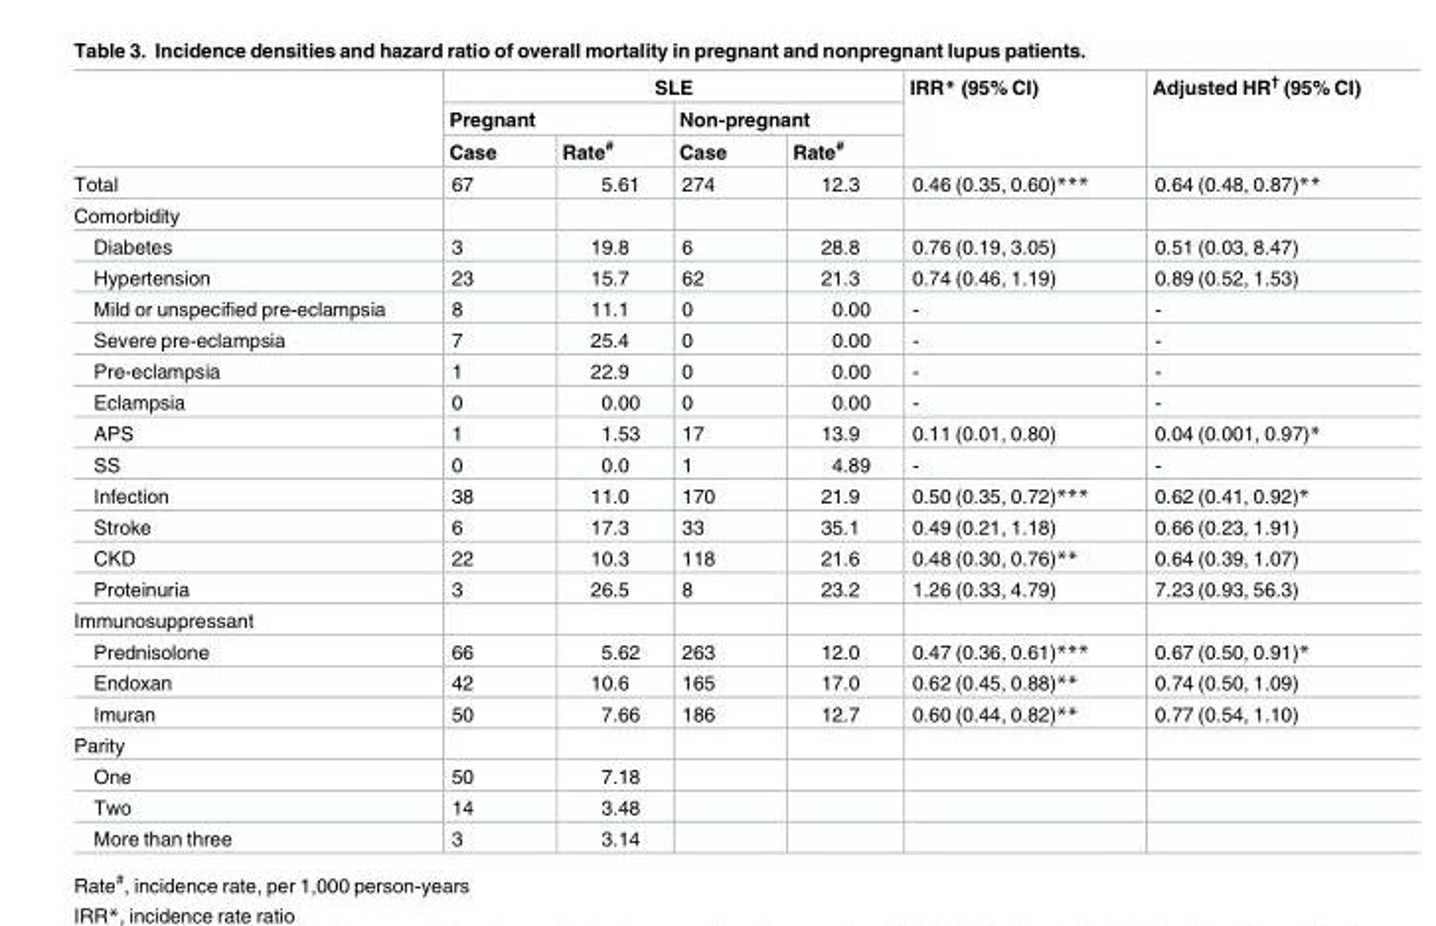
<table><thead><tr><td rowspan="3"></td><td colspan="4">SLE</td><td rowspan="3">IRR* (95% CI)</td><td rowspan="3">Adjusted HR<sup>†</sup> (95% CI)</td></tr><tr><td colspan="2">Pregnant</td><td colspan="2">Non-pregnant</td></tr><tr><td>Case</td><td>Rate<sup>#</sup></td><td>Case</td><td>Rate<sup>#</sup></td></tr></thead><tbody><tr><td>Total</td><td>67</td><td>5.61</td><td>274</td><td>12.3</td><td>0.46 (0.35, 0.60)***</td><td>0.64 (0.48, 0.87)**</td></tr><tr><td colspan="7">Comorbidity</td></tr><tr><td>Diabetes</td><td>3</td><td>19.8</td><td>6</td><td>28.8</td><td>0.76 (0.19, 3.05)</td><td>0.51 (0.03, 8.47)</td></tr><tr><td>Hypertension</td><td>23</td><td>15.7</td><td>62</td><td>21.3</td><td>0.74 (0.46, 1.19)</td><td>0.89 (0.52, 1.53)</td></tr><tr><td>Mild or unspecified pre-eclampsia</td><td>8</td><td>11.1</td><td>0</td><td>0.00</td><td>-</td><td>-</td></tr><tr><td>Severe pre-eclampsia</td><td>7</td><td>25.4</td><td>0</td><td>0.00</td><td>-</td><td>-</td></tr><tr><td>Pre-eclampsia</td><td>1</td><td>22.9</td><td>0</td><td>0.00</td><td>-</td><td>-</td></tr><tr><td>Eclampsia</td><td>0</td><td>0.00</td><td>0</td><td>0.00</td><td>-</td><td>-</td></tr><tr><td>APS</td><td>1</td><td>1.53</td><td>17</td><td>13.9</td><td>0.11 (0.01, 0.80)</td><td>0.04 (0.001, 0.97)*</td></tr><tr><td>SS</td><td>0</td><td>0.0</td><td>1</td><td>4.89</td><td>-</td><td>-</td></tr><tr><td>Infection</td><td>38</td><td>11.0</td><td>170</td><td>21.9</td><td>0.50 (0.35, 0.72)***</td><td>0.62 (0.41, 0.92)*</td></tr><tr><td>Stroke</td><td>6</td><td>17.3</td><td>33</td><td>35.1</td><td>0.49 (0.21, 1.18)</td><td>0.66 (0.23, 1.91)</td></tr><tr><td>CKD</td><td>22</td><td>10.3</td><td>118</td><td>21.6</td><td>0.48 (0.30, 0.76)**</td><td>0.64 (0.39, 1.07)</td></tr><tr><td>Proteinuria</td><td>3</td><td>26.5</td><td>8</td><td>23.2</td><td>1.26 (0.33, 4.79)</td><td>7.23 (0.93, 56.3)</td></tr><tr><td colspan="7">Immunosuppressant</td></tr><tr><td>Prednisolone</td><td>66</td><td>5.62</td><td>263</td><td>12.0</td><td>0.47 (0.36, 0.61)***</td><td>0.67 (0.50, 0.91)*</td></tr><tr><td>Endoxan</td><td>42</td><td>10.6</td><td>165</td><td>17.0</td><td>0.62 (0.45, 0.88)**</td><td>0.74 (0.50, 1.09)</td></tr><tr><td>Imuran</td><td>50</td><td>7.66</td><td>186</td><td>12.7</td><td>0.60 (0.44, 0.82)**</td><td>0.77 (0.54, 1.10)</td></tr><tr><td colspan="7">Parity</td></tr><tr><td>One</td><td>50</td><td>7.18</td><td></td><td></td><td></td><td></td></tr><tr><td>Two</td><td>14</td><td>3.48</td><td></td><td></td><td></td><td></td></tr><tr><td>More than three</td><td>3</td><td>3.14</td><td></td><td></td><td></td><td></td></tr></tbody></table>